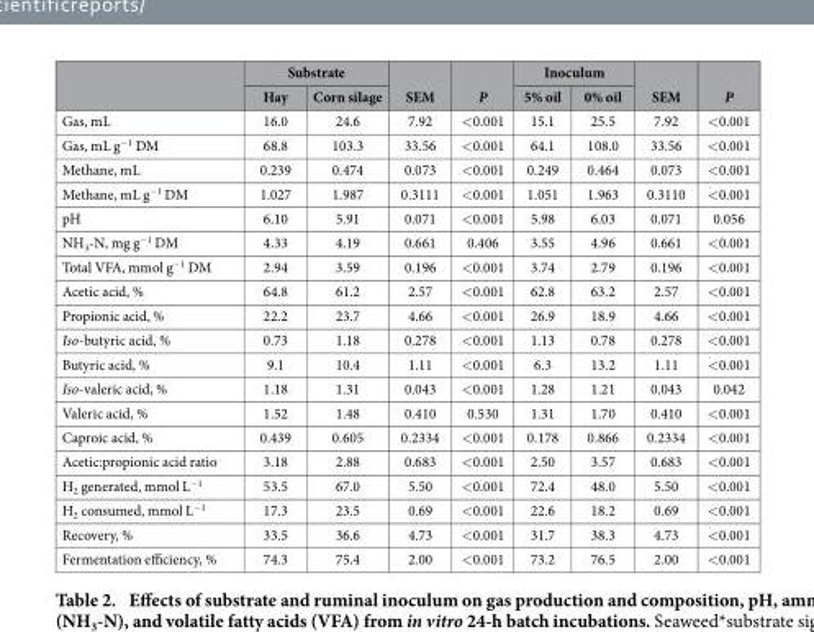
<table><thead><tr><td rowspan="2"></td><td colspan="2">Substrate</td><td rowspan="2">SEM</td><td rowspan="2">P</td><td colspan="2">Inoculum</td><td rowspan="2">SEM</td><td rowspan="2">P</td></tr><tr><td>Hay</td><td>Corn silage</td><td>5% oil</td><td>0% oil</td></tr></thead><tbody><tr><td>Gas, mL</td><td>16.0</td><td>24.6</td><td>7.92</td><td>&lt; 0.001</td><td>15.1</td><td>25.5</td><td>7.92</td><td>&lt; 0.001</td></tr><tr><td>Gas, mL g<sup>−1</sup> DM</td><td>68.8</td><td>103.3</td><td>33.56</td><td>&lt; 0.001</td><td>64.1</td><td>108.0</td><td>33.56</td><td>&lt; 0.001</td></tr><tr><td>Methane, mL</td><td>0.239</td><td>0.474</td><td>0.073</td><td>&lt; 0.001</td><td>0.249</td><td>0.464</td><td>0.073</td><td>&lt; 0.001</td></tr><tr><td>Methane, mL g<sup>−1</sup> DM</td><td>1.027</td><td>1.987</td><td>0.3111</td><td>&lt; 0.001</td><td>1.051</td><td>1.963</td><td>0.3110</td><td>&lt; 0.001</td></tr><tr><td>pH</td><td>6.10</td><td>5.91</td><td>0.071</td><td>&lt; 0.001</td><td>5.98</td><td>6.03</td><td>0.071</td><td>0.056</td></tr><tr><td>NH<sub>3</sub>-N, mg g<sup>−1</sup> DM</td><td>4.33</td><td>4.19</td><td>0.661</td><td>0.406</td><td>3.55</td><td>4.96</td><td>0.661</td><td>&lt; 0.001</td></tr><tr><td>Total VFA, mmol g<sup>−1</sup> DM</td><td>2.94</td><td>3.59</td><td>0.196</td><td>&lt; 0.001</td><td>3.74</td><td>2.79</td><td>0.196</td><td>&lt; 0.001</td></tr><tr><td>Acetic acid, %</td><td>64.8</td><td>61.2</td><td>2.57</td><td>&lt; 0.001</td><td>62.8</td><td>63.2</td><td>2.57</td><td>&lt; 0.001</td></tr><tr><td>Propionic acid, %</td><td>22.2</td><td>23.7</td><td>4.66</td><td>&lt; 0.001</td><td>26.9</td><td>18.9</td><td>4.66</td><td>&lt; 0.001</td></tr><tr><td>Iso-butyric acid, %</td><td>0.73</td><td>1.18</td><td>0.278</td><td>&lt; 0.001</td><td>1.13</td><td>0.78</td><td>0.278</td><td>&lt; 0.001</td></tr><tr><td>Butyric acid, %</td><td>9.1</td><td>10.4</td><td>1.11</td><td>&lt; 0.001</td><td>6.3</td><td>13.2</td><td>1.11</td><td>&lt; 0.001</td></tr><tr><td>Iso-valeric acid, %</td><td>1.18</td><td>1.31</td><td>0.043</td><td>&lt; 0.001</td><td>1.28</td><td>1.21</td><td>0.043</td><td>0.042</td></tr><tr><td>Valeric acid, %</td><td>1.52</td><td>1.48</td><td>0.410</td><td>0.530</td><td>1.31</td><td>1.70</td><td>0.410</td><td>&lt; 0.001</td></tr><tr><td>Caproic acid, %</td><td>0.439</td><td>0.605</td><td>0.2334</td><td>&lt; 0.001</td><td>0.178</td><td>0.866</td><td>0.2334</td><td>&lt; 0.001</td></tr><tr><td>Acetic:propionic acid ratio</td><td>3.18</td><td>2.88</td><td>0.683</td><td>&lt; 0.001</td><td>2.50</td><td>3.57</td><td>0.683</td><td>&lt; 0.001</td></tr><tr><td>H<sub>2</sub> generated, mmol L<sup>−1</sup></td><td>53.5</td><td>67.0</td><td>5.50</td><td>&lt; 0.001</td><td>72.4</td><td>48.0</td><td>5.50</td><td>&lt; 0.001</td></tr><tr><td>H<sub>2</sub> consumed, mmol L<sup>−1</sup></td><td>17.3</td><td>23.5</td><td>0.69</td><td>&lt; 0.001</td><td>22.6</td><td>18.2</td><td>0.69</td><td>&lt; 0.001</td></tr><tr><td>Recovery, %</td><td>33.5</td><td>36.6</td><td>4.73</td><td>&lt; 0.001</td><td>31.7</td><td>38.3</td><td>4.73</td><td>&lt; 0.001</td></tr><tr><td>Fermentation efficiency, %</td><td>74.3</td><td>75.4</td><td>2.00</td><td>&lt; 0.001</td><td>73.2</td><td>76.5</td><td>2.00</td><td>&lt; 0.001</td></tr></tbody></table>